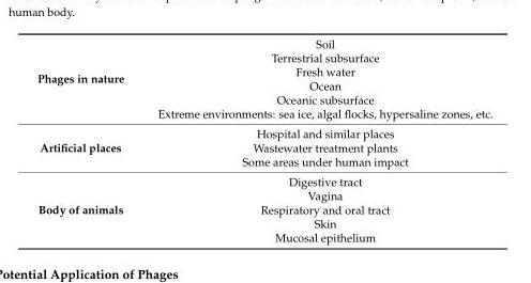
<table><tbody><tr><td rowspan="6">Phages in nature</td><td>Soil</td></tr><tr><td>Terrestrial subsurface</td></tr><tr><td>Fresh water</td></tr><tr><td>Ocean</td></tr><tr><td>Oceanic subsurface</td></tr><tr><td>Extreme environments: sea ice, algal flocks, hypersaline zones, etc.</td></tr><tr><td rowspan="3">Artificial places</td><td>Hospital and similar places</td></tr><tr><td>Wastewater treatment plants</td></tr><tr><td>Some areas under human impact</td></tr><tr><td rowspan="5">Body of animals</td><td>Digestive tract</td></tr><tr><td>Vagina</td></tr><tr><td>Respiratory and oral tract</td></tr><tr><td>Skin</td></tr><tr><td>Mucosal epithelium</td></tr></tbody></table>